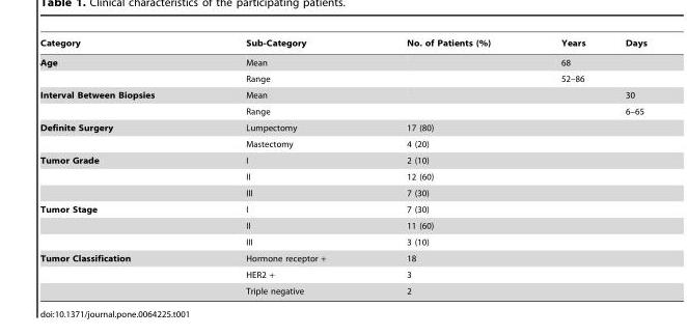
<table><thead><tr><td>Category</td><td>Sub-Category</td><td>No. of Patients (%)</td><td>Years</td><td>Days</td></tr></thead><tbody><tr><td rowspan="2">`Age</td><td>Mean</td><td></td><td>68</td><td></td></tr><tr><td>Range</td><td></td><td>52–86</td><td></td></tr><tr><td rowspan="2">Interval Between Biopsies</td><td>Mean</td><td></td><td></td><td>30</td></tr><tr><td>Range</td><td></td><td></td><td>6–65</td></tr><tr><td rowspan="2">Definite Surgery</td><td>Lumpectomy</td><td>17 (80)</td><td></td><td></td></tr><tr><td>Mastectomy</td><td>4 (20)</td><td></td><td></td></tr><tr><td rowspan="3">Tumor Grade</td><td>I</td><td>2 (10)</td><td></td><td></td></tr><tr><td>II</td><td>12 (60)</td><td></td><td></td></tr><tr><td>III</td><td>7 (30)</td><td></td><td></td></tr><tr><td rowspan="3">Tumor Stage</td><td>I</td><td>7 (30)</td><td></td><td></td></tr><tr><td>II</td><td>11 (60)</td><td></td><td></td></tr><tr><td>III</td><td>3 (10)</td><td></td><td></td></tr><tr><td rowspan="3">Tumor Classification</td><td>Hormone receptor +</td><td>18</td><td></td><td></td></tr><tr><td>HER2 +</td><td>3</td><td></td><td></td></tr><tr><td>Triple negative</td><td>2</td><td></td><td></td></tr></tbody></table>